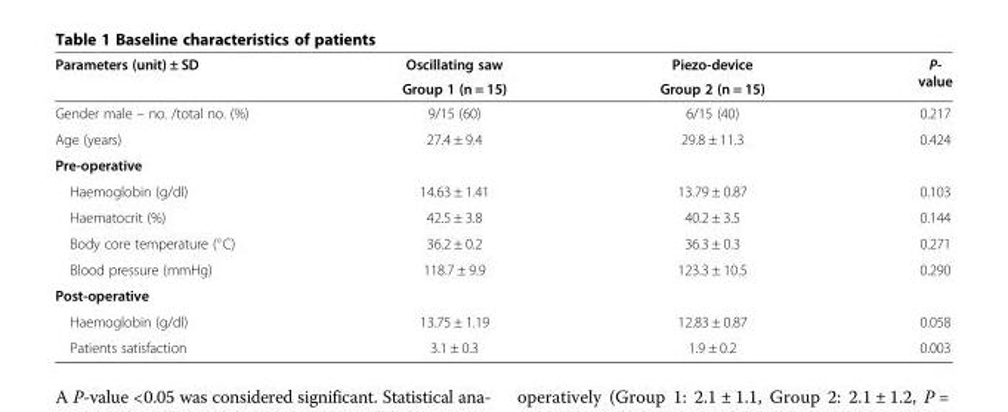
<table><thead><tr><td rowspan="2">Parameters (unit) ± SD</td><td rowspan="2">Oscillating saw Group 1 (n = 15)</td><td rowspan="2">Piezo-device Group 2 (n = 15)</td><td rowspan="2">P- value</td></tr><tr></tr></thead><tbody><tr><td>Gender male – no. /total no. (%)</td><td>9/15 (60)</td><td>6/15 (40)</td><td>0.217</td></tr><tr><td>Age (years)</td><td>27.4 ± 9.4</td><td>29.8 ± 11.3</td><td>0.424</td></tr><tr><td colspan="4">Pre-operative</td></tr><tr><td>Haemoglobin (g/dl)</td><td>14.63 ± 1.41</td><td>13.79 ± 0.87</td><td>0.103</td></tr><tr><td>Haematocrit (%)</td><td>42.5 ± 3.8</td><td>40.2 ± 3.5</td><td>0.144</td></tr><tr><td>Body core temperature (°C)</td><td>36.2 ± 0.2</td><td>36.3 ± 0.3</td><td>0.271</td></tr><tr><td>Blood pressure (mmHg)</td><td>118.7 ± 9.9</td><td>123.3 ± 10.5</td><td>0.290</td></tr><tr><td colspan="4">Post-operative</td></tr><tr><td>Haemoglobin (g/dl)</td><td>13.75 ± 1.19</td><td>12.83 ± 0.87</td><td>0.058</td></tr><tr><td>Patients satisfaction</td><td>3.1 ± 0.3</td><td>1.9 ± 0.2</td><td>0.003</td></tr></tbody></table>